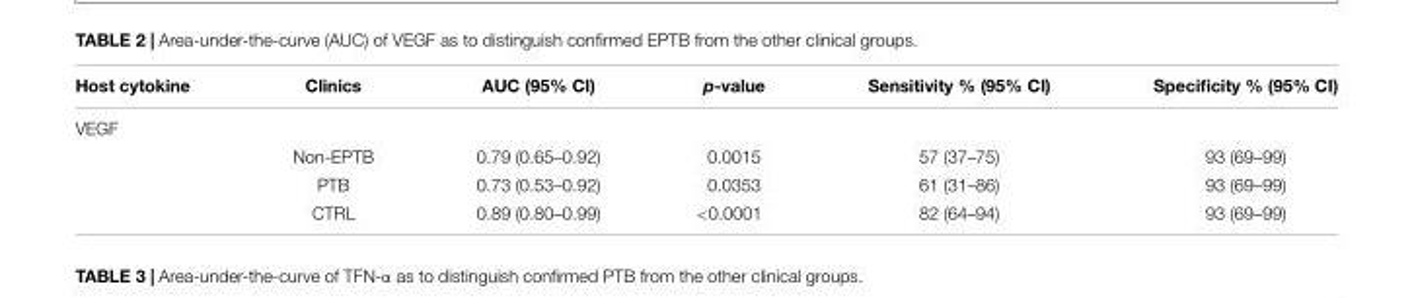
<table><thead><tr><td>Host cytokine</td><td>Clinics</td><td>AUC (95% CI)</td><td>p-value</td><td>Sensitivity % (95% CI)</td><td>Specificity % (95% CI)</td></tr></thead><tbody><tr><td colspan="6">VEGF</td></tr><tr><td></td><td>Non-EPTB</td><td>0.79 (0.65–0.92)</td><td>0.0015</td><td>57 (37–75)</td><td>93 (69–99)</td></tr><tr><td></td><td>PTB</td><td>0.73 (0.53–0.92)</td><td>0.0353</td><td>61 (31–86)</td><td>93 (69–99)</td></tr><tr><td></td><td>CTRL</td><td>0.89 (0.80–0.99)</td><td>&lt;0.0001</td><td>82 (64–94)</td><td>93 (69–99)</td></tr></tbody></table>